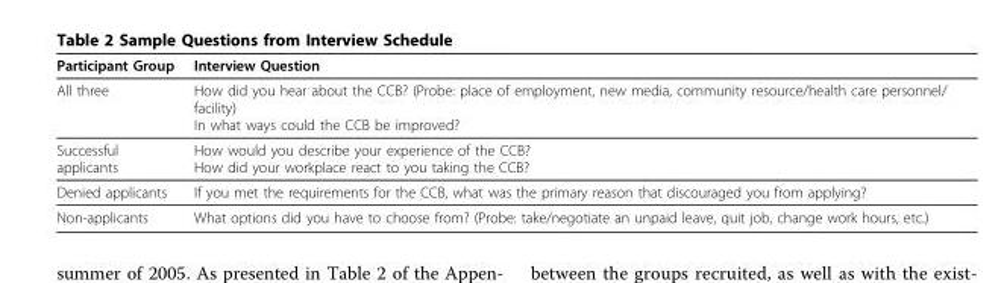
<table><thead><tr><td>Participant Group</td><td>Interview Question</td></tr></thead><tbody><tr><td>All three</td><td>How did you hear about the CCB? (Probe: place of employment, new media, community resource/health care personnel/ facility) In what ways could the CCB be improved?</td></tr><tr><td>Successful applicants</td><td>How would you describe your experience of the CCB? How did your workplace react to you taking the CCB?</td></tr><tr><td>Denied applicants</td><td>If you met the requirements for the CCB, what was the primary reason that discouraged you from applying?</td></tr><tr><td>Non-applicants</td><td>What options did you have to choose from? (Probe: take/negotiate an unpaid leave, quit job, change work hours, etc.)</td></tr></tbody></table>